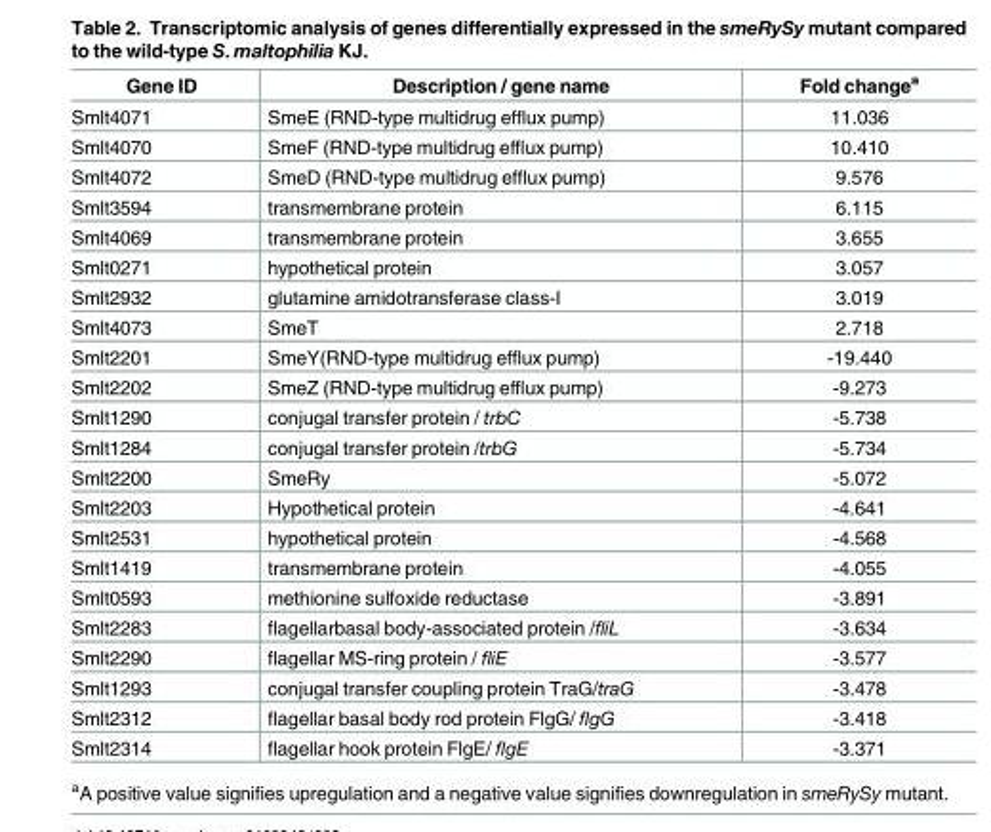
<table><thead><tr><td>Gene ID</td><td>Description / gene name</td><td>Fold change<sup>a</sup></td></tr></thead><tbody><tr><td>Smlt4071</td><td>SmeE (RND-type multidrug efflux pump)</td><td>11.036</td></tr><tr><td>Smlt4070</td><td>SmeF (RND-type multidrug efflux pump)</td><td>10.410</td></tr><tr><td>Smlt4072</td><td>SmeD (RND-type multidrug efflux pump)</td><td>9.576</td></tr><tr><td>Smlt3594</td><td>transmembrane protein</td><td>6.115</td></tr><tr><td>Smlt4069</td><td>transmembrane protein</td><td>3.655</td></tr><tr><td>Smlt0271</td><td>hypothetical protein</td><td>3.057</td></tr><tr><td>Smlt2932</td><td>glutamine amidotransferase class-I</td><td>3.019</td></tr><tr><td>Smlt4073</td><td>SmeT</td><td>2.718</td></tr><tr><td>Smlt2201</td><td>SmeY(RND-type multidrug efflux pump)</td><td>-19.440</td></tr><tr><td>Smlt2202</td><td>SmeZ (RND-type multidrug efflux pump)</td><td>-9.273</td></tr><tr><td>Smlt1290</td><td>conjugal transfer protein / trbC</td><td>-5.738</td></tr><tr><td>Smlt1284</td><td>conjugal transfer protein /trbG</td><td>-5.734</td></tr><tr><td>Smlt2200</td><td>SmeRy</td><td>-5.072</td></tr><tr><td>Smlt2203</td><td>Hypothetical protein</td><td>-4.641</td></tr><tr><td>Smlt2531</td><td>hypothetical protein</td><td>-4.568</td></tr><tr><td>Smlt1419</td><td>transmembrane protein</td><td>-4.055</td></tr><tr><td>Smlt0593</td><td>methionine sulfoxide reductase</td><td>-3.891</td></tr><tr><td>Smlt2283</td><td>flagellarbasal body-associated protein /fliL</td><td>-3.634</td></tr><tr><td>Smlt2290</td><td>flagellar MS-ring protein / fliE</td><td>-3.577</td></tr><tr><td>Smlt1293</td><td>conjugal transfer coupling protein TraG/traG</td><td>-3.478</td></tr><tr><td>Smlt2312</td><td>flagellar basal body rod protein FlgG/ flgG</td><td>-3.418</td></tr><tr><td>Smlt2314</td><td>flagellar hook protein FlgE/ flgE</td><td>-3.371</td></tr></tbody></table>